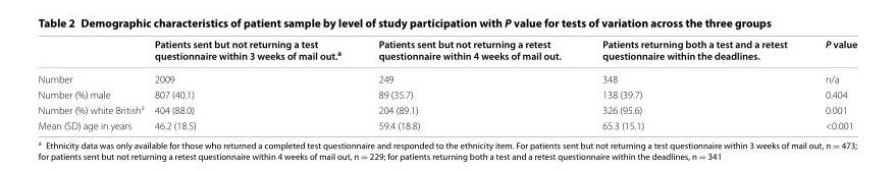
<table><thead><tr><td></td><td>Patients sent but not returning a test questionnaire within 3 weeks of mail out.<sup>a</sup></td><td>Patients sent but not returning a retest questionnaire within 4 weeks of mail out.</td><td>Patients returning both a test and a retest questionnaire within the deadlines.</td><td>P value</td></tr></thead><tbody><tr><td>Number</td><td>2009</td><td>249</td><td>348</td><td>n/a</td></tr><tr><td>Number (%) male</td><td>807 (40.1)</td><td>89 (35.7)</td><td>138 (39.7)</td><td>0.404</td></tr><tr><td>Number (%) white British<sup>a</sup></td><td>404 (88.0)</td><td>204 (89.1)</td><td>326 (95.6)</td><td>0.001</td></tr><tr><td>Mean (SD) age in years</td><td>46.2 (18.5)</td><td>59.4 (18.8)</td><td>65.3 (15.1)</td><td>&lt;0.001</td></tr></tbody></table>